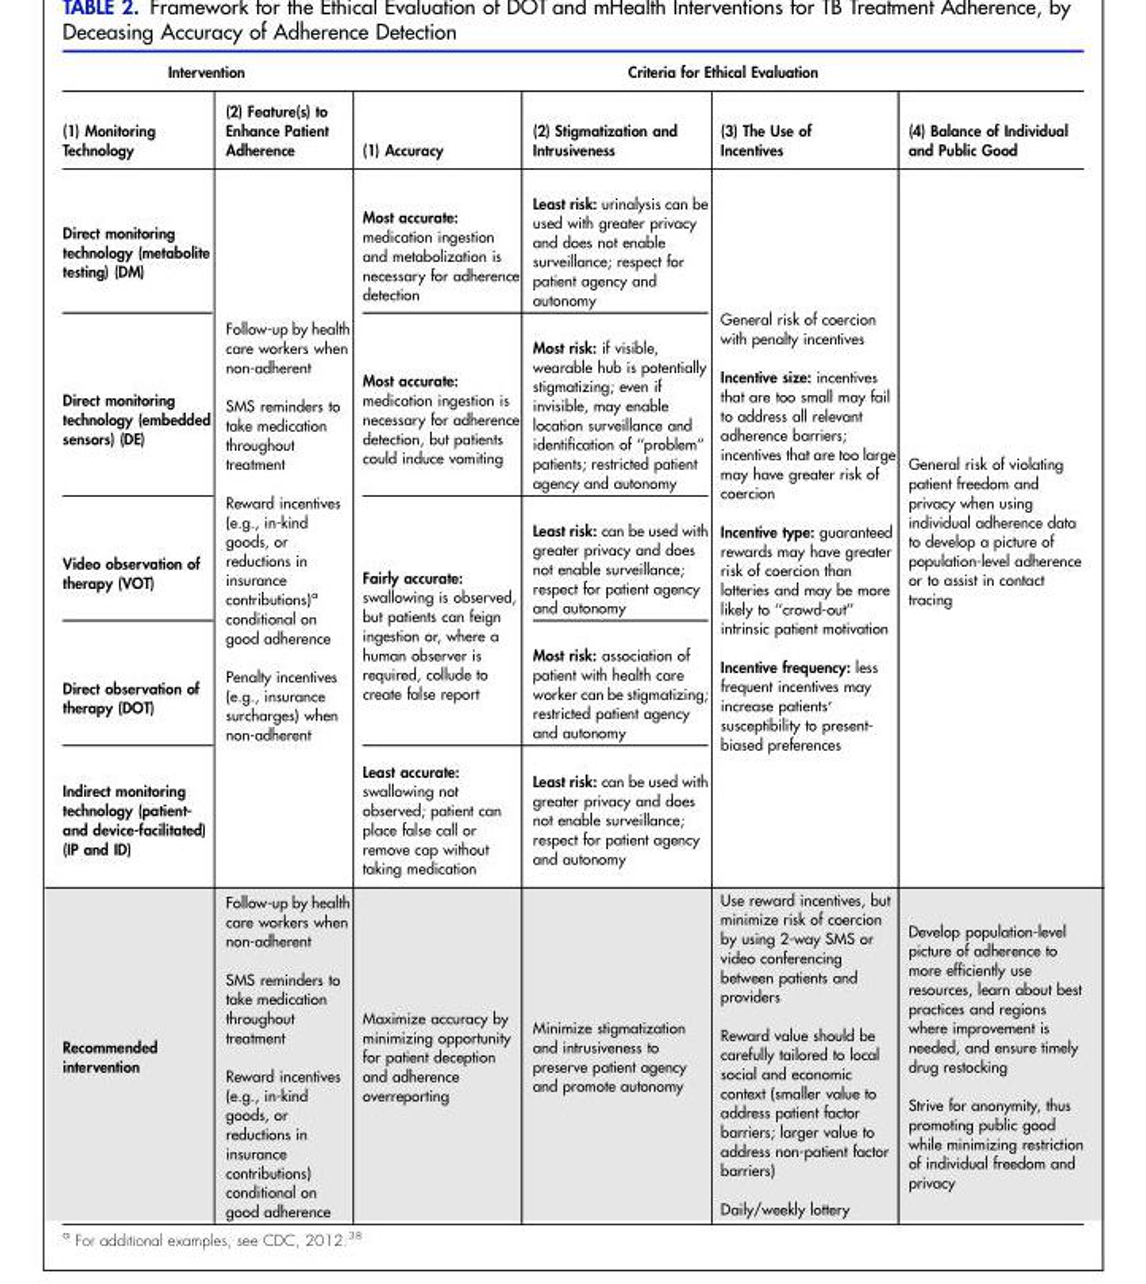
<table><thead><tr><td colspan="2">Intervention</td><td colspan="4">Criteria for Ethical Evaluation</td></tr><tr><td>(1) Monitoring Technology</td><td>(2) Feature(s) to Enhance Patient Adherence</td><td>(1) Accuracy</td><td>(2) Stigmatization and Intrusiveness</td><td>(3) The Use of Incentives</td><td>(4) Balance of Individual and Public Good</td></tr></thead><tbody><tr><td>Direct monitoring technology (metabolite testing) (DM)</td><td rowspan="5">Follow-up by health care workers when non-adherent SMS reminders to take medication throughout treatment Reward incentives (e.g., in-kind goods, or reductions in insurance contributions)<sup>a</sup> conditional on good adherence Penalty incentives (e.g., insurance surcharges) when non-adherent</td><td>Most accurate: medication ingestion and metabolization is necessary for adherence detection</td><td>Least risk: urinalysis can be used with greater privacy and does not enable surveillance; respect for patient agency and autonomy</td><td rowspan="5">General risk of coercion with penalty incentives Incentive size: incentives that are too small may fail to address all relevant adherence barriers; incentives that are too large may have greater risk of coercion Incentive type: guaranteed rewards may have greater risk of coercion than lotteries and may be more likely to ‘‘crowd-out’’ intrinsic patient motivation Incentive frequency: less frequent incentives may increase patients’ susceptibility to present- biased preferences</td><td rowspan="5">General risk of violating patient freedom and privacy when using individual adherence data to develop a picture of population-level adherence or to assist in contact tracing</td></tr><tr><td>Direct monitoring technology (embedded sensors) (DE)</td><td>Most accurate: medication ingestion is necessary for adherence detection, but patients could induce vomiting</td><td>Most risk: if visible, wearable hub is potentially stigmatizing; even if invisible, may enable location surveillance and identification of ‘‘problem’’ patients; restricted patient agency and autonomy</td></tr><tr><td>Video observation of therapy (VOT)</td><td rowspan="2">Fairly accurate: swallowing is observed, but patients can feign ingestion or, where a human observer is required, collude to create false report</td><td>Least risk: can be used with greater privacy and does not enable surveillance; respect for patient agency and autonomy</td></tr><tr><td>Direct observation of therapy (DOT)</td><td>Most risk: association of patient with health care worker can be stigmatizing; restricted patient agency and autonomy</td></tr><tr><td>Indirect monitoring technology (patient- and device-facilitated) (IP and ID)</td><td>Least accurate: swallowing not observed; patient can place false call or remove cap without taking medication</td><td>Least risk: can be used with greater privacy and does not enable surveillance; respect for patient agency and autonomy</td></tr><tr><td>Recommended intervention</td><td>Follow-up by health care workers when non-adherent SMS reminders to take medication throughout treatment Reward incentives (e.g., in-kind goods, or reductions in insurance contributions) conditional on good adherence</td><td>Maximize accuracy by minimizing opportunity for patient deception and adherence overreporting</td><td>Minimize stigmatization and intrusiveness to preserve patient agency and promote autonomy</td><td>Use reward incentives, but minimize risk of coercion by using 2-way SMS or video conferencing between patients and providers Reward value should be carefully tailored to local social and economic context (smaller value to address patient factor barriers; larger value to address non-patient factor barriers) Daily/weekly lottery</td><td>Develop population-level picture of adherence to more efficiently use resources, learn about best practices and regions where improvement is needed, and ensure timely drug restocking Strive for anonymity, thus promoting public good while minimizing restriction of individual freedom and privacy</td></tr></tbody></table>